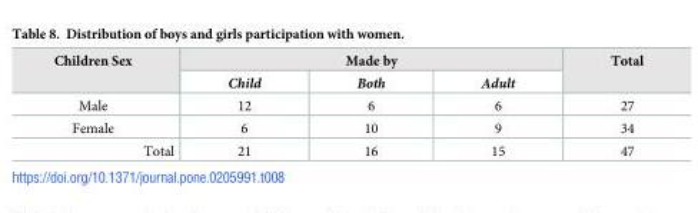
<table><thead><tr><td rowspan="2">Children Sex</td><td colspan="3">Made by</td><td rowspan="2">Total</td></tr><tr><td>Child</td><td>Both</td><td>Adult</td></tr></thead><tbody><tr><td>Male</td><td>12</td><td>6</td><td>6</td><td>27</td></tr><tr><td>Female</td><td>6</td><td>10</td><td>9</td><td>34</td></tr><tr><td>Total</td><td>21</td><td>16</td><td>15</td><td>47</td></tr></tbody></table>